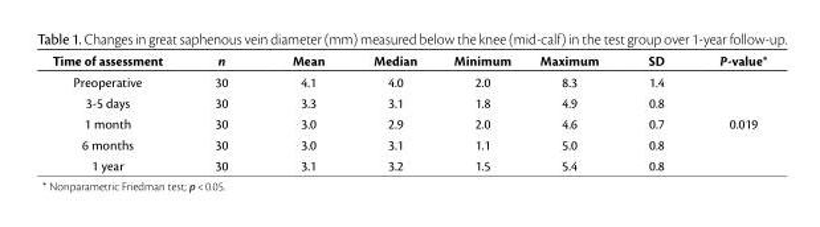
<table><thead><tr><td>Time of assessment</td><td>n</td><td>Mean</td><td>Median</td><td>Minimum</td><td>Maximum</td><td>SD</td><td>P-value*</td></tr></thead><tbody><tr><td>Preoperative</td><td>30</td><td>4.1</td><td>4.0</td><td>2.0</td><td>8.3</td><td>1.4</td><td></td></tr><tr><td>3-5 days</td><td>30</td><td>3.3</td><td>3.1</td><td>1.8</td><td>4.9</td><td>0.8</td><td></td></tr><tr><td>1 month</td><td>30</td><td>3.0</td><td>2.9</td><td>2.0</td><td>4.6</td><td>0.7</td><td>0.019</td></tr><tr><td>6 months</td><td>30</td><td>3.0</td><td>3.1</td><td>1.1</td><td>5.0</td><td>0.8</td><td></td></tr><tr><td>1 year</td><td>30</td><td>3.1</td><td>3.2</td><td>1.5</td><td>5.4</td><td>0.8</td><td></td></tr></tbody></table>